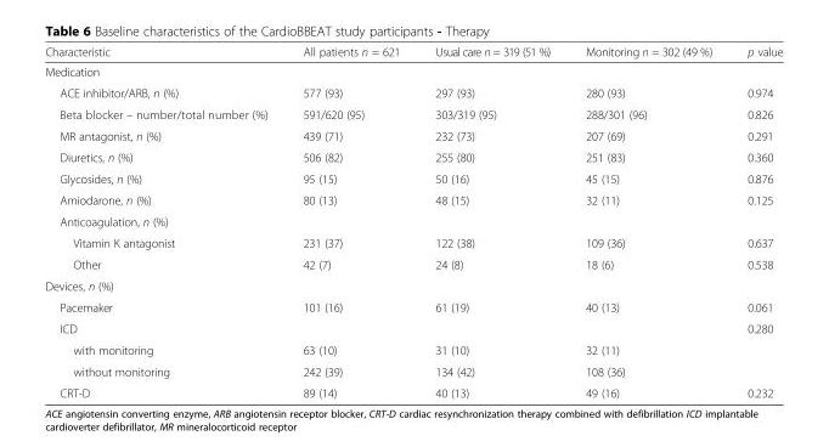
<table><thead><tr><td>Characteristic</td><td>All patients n = 621</td><td>Usual care n = 319 (51 %)</td><td>Monitoring n = 302 (49 %)</td><td>p value</td></tr></thead><tbody><tr><td colspan="5">Medication</td></tr><tr><td>ACE inhibitor/ARB, n (%)</td><td>577 (93)</td><td>297 (93)</td><td>280 (93)</td><td>0.974</td></tr><tr><td>Beta blocker – number/total number (%)</td><td>591/620 (95)</td><td>303/319 (95)</td><td>288/301 (96)</td><td>0.826</td></tr><tr><td>MR antagonist, n (%)</td><td>439 (71)</td><td>232 (73)</td><td>207 (69)</td><td>0.291</td></tr><tr><td>Diuretics, n (%)</td><td>506 (82)</td><td>255 (80)</td><td>251 (83)</td><td>0.360</td></tr><tr><td>Glycosides, n (%)</td><td>95 (15)</td><td>50 (16)</td><td>45 (15)</td><td>0.876</td></tr><tr><td>Amiodarone, n (%)</td><td>80 (13)</td><td>48 (15)</td><td>32 (11)</td><td>0.125</td></tr><tr><td colspan="5">Anticoagulation, n (%)</td></tr><tr><td>Vitamin K antagonist</td><td>231 (37)</td><td>122 (38)</td><td>109 (36)</td><td>0.637</td></tr><tr><td>Other</td><td>42 (7)</td><td>24 (8)</td><td>18 (6)</td><td>0.538</td></tr><tr><td colspan="5">Devices, n (%)</td></tr><tr><td>Pacemaker</td><td>101 (16)</td><td>61 (19)</td><td>40 (13)</td><td>0.061</td></tr><tr><td>ICD</td><td></td><td></td><td></td><td>0.280</td></tr><tr><td>with monitoring</td><td>63 (10)</td><td>31 (10)</td><td>32 (11)</td><td></td></tr><tr><td>without monitoring</td><td>242 (39)</td><td>134 (42)</td><td>108 (36)</td><td></td></tr><tr><td>CRT-D</td><td>89 (14)</td><td>40 (13)</td><td>49 (16)</td><td>0.232</td></tr></tbody></table>